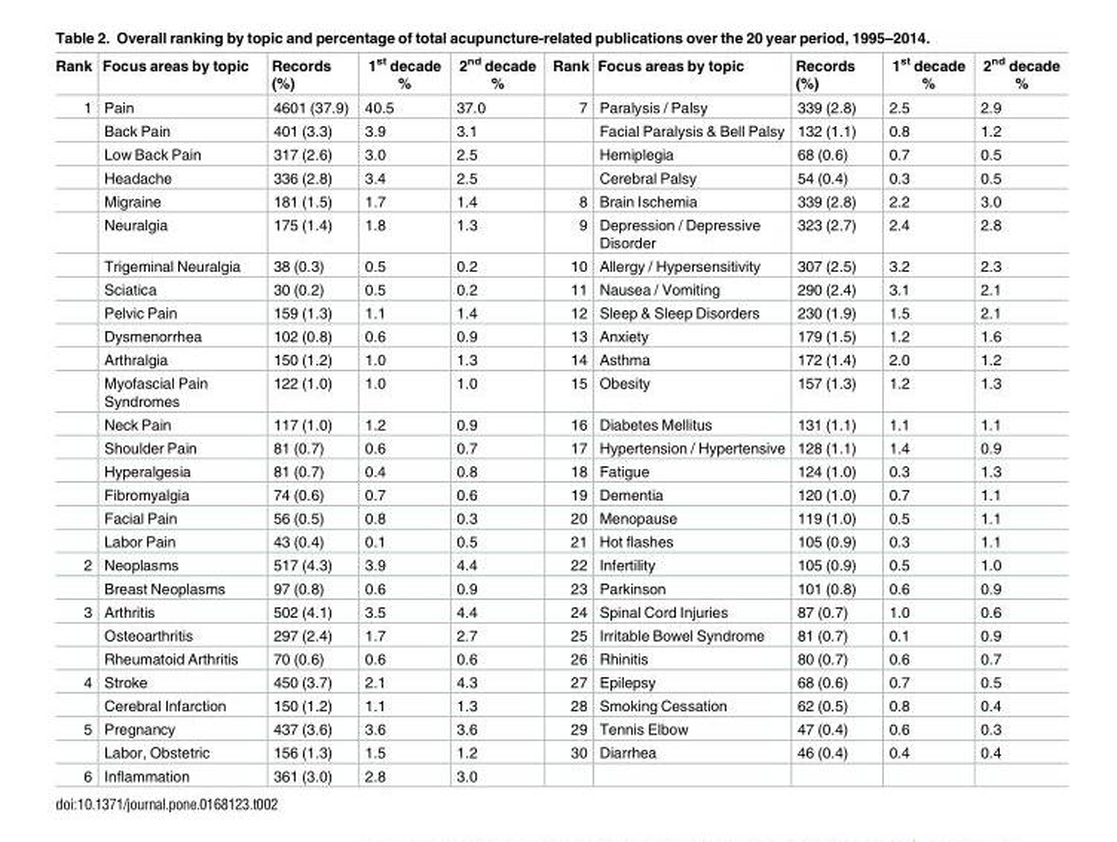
<table><thead><tr><td>Rank</td><td>Focus areas by topic</td><td>Records (%)</td><td>1<sup>st</sup> decade %</td><td>2<sup>nd</sup> decade %</td><td>Rank</td><td>Focus areas by topic</td><td>Records (%)</td><td>1<sup>st</sup> decade %</td><td>2<sup>nd</sup> decade %</td></tr></thead><tbody><tr><td rowspan="18">1</td><td>Pain</td><td>4601 (37.9)</td><td>40.5</td><td>37.0</td><td>7</td><td>Paralysis / Palsy</td><td>339 (2.8)</td><td>2.5</td><td>2.9</td></tr><tr><td>Back Pain</td><td>401 (3.3)</td><td>3.9</td><td>3.1</td><td></td><td>Facial Paralysis &amp; Bell Palsy</td><td>132 (1.1)</td><td>0.8</td><td>1.2</td></tr><tr><td>Low Back Pain</td><td>317 (2.6)</td><td>3.0</td><td>2.5</td><td></td><td>Hemiplegia</td><td>68 (0.6)</td><td>0.7</td><td>0.5</td></tr><tr><td>Headache</td><td>336 (2.8)</td><td>3.4</td><td>2.5</td><td></td><td>Cerebral Palsy</td><td>54 (0.4)</td><td>0.3</td><td>0.5</td></tr><tr><td>Migraine</td><td>181 (1.5)</td><td>1.7</td><td>1.4</td><td>8</td><td>Brain Ischemia</td><td>339 (2.8)</td><td>2.2</td><td>3.0</td></tr><tr><td>Neuralgia</td><td>175 (1.4)</td><td>1.8</td><td>1.3</td><td>9</td><td>Depression / Depressive Disorder</td><td>323 (2.7)</td><td>2.4</td><td>2.8</td></tr><tr><td>Trigeminal Neuralgia</td><td>38 (0.3)</td><td>0.5</td><td>0.2</td><td>10</td><td>Allergy / Hypersensitivity</td><td>307 (2.5)</td><td>3.2</td><td>2.3</td></tr><tr><td>Sciatica</td><td>30 (0.2)</td><td>0.5</td><td>0.2</td><td>11</td><td>Nausea / Vomiting</td><td>290 (2.4)</td><td>3.1</td><td>2.1</td></tr><tr><td>Pelvic Pain</td><td>159 (1.3)</td><td>1.1</td><td>1.4</td><td>12</td><td>Sleep &amp; Sleep Disorders</td><td>230 (1.9)</td><td>1.5</td><td>2.1</td></tr><tr><td>Dysmenorrhea</td><td>102 (0.8)</td><td>0.6</td><td>0.9</td><td>13</td><td>Anxiety</td><td>179 (1.5)</td><td>1.2</td><td>1.6</td></tr><tr><td>Arthralgia</td><td>150 (1.2)</td><td>1.0</td><td>1.3</td><td>14</td><td>Asthma</td><td>172 (1.4)</td><td>2.0</td><td>1.2</td></tr><tr><td>Myofascial Pain Syndromes</td><td>122 (1.0)</td><td>1.0</td><td>1.0</td><td>15</td><td>Obesity</td><td>157 (1.3)</td><td>1.2</td><td>1.3</td></tr><tr><td>Neck Pain</td><td>117 (1.0)</td><td>1.2</td><td>0.9</td><td>16</td><td>Diabetes Mellitus</td><td>131 (1.1)</td><td>1.1</td><td>1.1</td></tr><tr><td>Shoulder Pain</td><td>81 (0.7)</td><td>0.6</td><td>0.7</td><td>17</td><td>Hypertension / Hypertensive</td><td>128 (1.1)</td><td>1.4</td><td>0.9</td></tr><tr><td>Hyperalgesia</td><td>81 (0.7)</td><td>0.4</td><td>0.8</td><td>18</td><td>Fatigue</td><td>124 (1.0)</td><td>0.3</td><td>1.3</td></tr><tr><td>Fibromyalgia</td><td>74 (0.6)</td><td>0.7</td><td>0.6</td><td>19</td><td>Dementia</td><td>120 (1.0)</td><td>0.7</td><td>1.1</td></tr><tr><td>Facial Pain</td><td>56 (0.5)</td><td>0.8</td><td>0.3</td><td>20</td><td>Menopause</td><td>119 (1.0)</td><td>0.5</td><td>1.1</td></tr><tr><td>Labor Pain</td><td>43 (0.4)</td><td>0.1</td><td>0.5</td><td>21</td><td>Hot flashes</td><td>105 (0.9)</td><td>0.3</td><td>1.1</td></tr><tr><td rowspan="2">2</td><td>Neoplasms</td><td>517 (4.3)</td><td>3.9</td><td>4.4</td><td>22</td><td>Infertility</td><td>105 (0.9)</td><td>0.5</td><td>1.0</td></tr><tr><td>Breast Neoplasms</td><td>97 (0.8)</td><td>0.6</td><td>0.9</td><td>23</td><td>Parkinson</td><td>101 (0.8)</td><td>0.6</td><td>0.9</td></tr><tr><td rowspan="3">3</td><td>Arthritis</td><td>502 (4.1)</td><td>3.5</td><td>4.4</td><td>24</td><td>Spinal Cord Injuries</td><td>87 (0.7)</td><td>1.0</td><td>0.6</td></tr><tr><td>Osteoarthritis</td><td>297 (2.4)</td><td>1.7</td><td>2.7</td><td>25</td><td>Irritable Bowel Syndrome</td><td>81 (0.7)</td><td>0.1</td><td>0.9</td></tr><tr><td>Rheumatoid Arthritis</td><td>70 (0.6)</td><td>0.6</td><td>0.6</td><td>26</td><td>Rhinitis</td><td>80 (0.7)</td><td>0.6</td><td>0.7</td></tr><tr><td rowspan="2">4</td><td>Stroke</td><td>450 (3.7)</td><td>2.1</td><td>4.3</td><td>27</td><td>Epilepsy</td><td>68 (0.6)</td><td>0.7</td><td>0.5</td></tr><tr><td>Cerebral Infarction</td><td>150 (1.2)</td><td>1.1</td><td>1.3</td><td>28</td><td>Smoking Cessation</td><td>62 (0.5)</td><td>0.8</td><td>0.4</td></tr><tr><td rowspan="2">5</td><td>Pregnancy</td><td>437 (3.6)</td><td>3.6</td><td>3.6</td><td>29</td><td>Tennis Elbow</td><td>47 (0.4)</td><td>0.6</td><td>0.3</td></tr><tr><td>Labor, Obstetric</td><td>156 (1.3)</td><td>1.5</td><td>1.2</td><td>30</td><td>Diarrhea</td><td>46 (0.4)</td><td>0.4</td><td>0.4</td></tr><tr><td>6</td><td>Inflammation</td><td>361 (3.0)</td><td>2.8</td><td>3.0</td><td></td><td></td><td></td><td></td><td></td></tr></tbody></table>